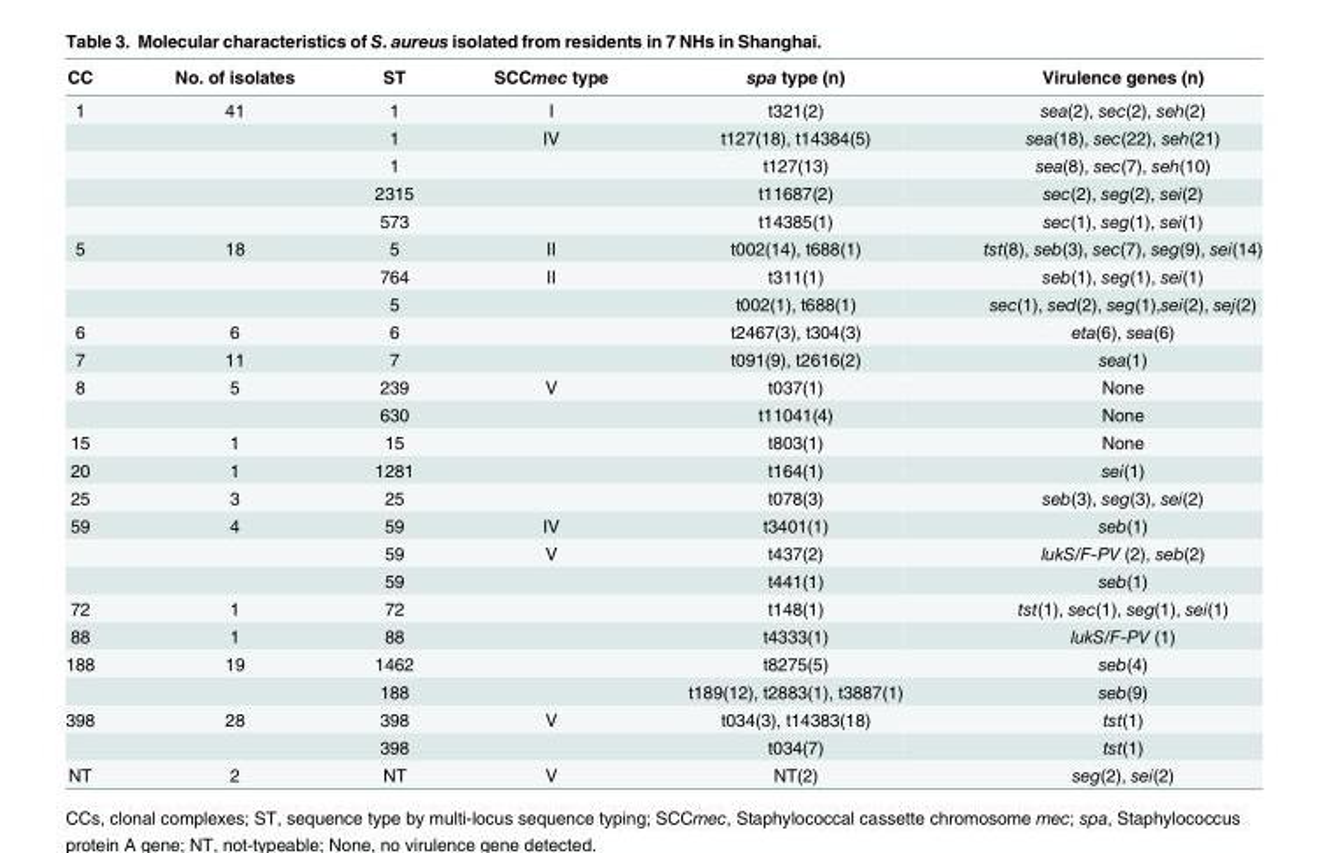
<table><thead><tr><td>CC</td><td>No. of isolates</td><td>ST</td><td>SCCmec type</td><td>spa type (n)</td><td>Virulence genes (n)</td></tr></thead><tbody><tr><td rowspan="5">1</td><td>41</td><td>1</td><td>I</td><td>t321(2)</td><td>sea(2), sec(2), seh(2)</td></tr><tr><td></td><td>1</td><td>IV</td><td>t127(18), t14384(5)</td><td>sea(18), sec(22), seh(21)</td></tr><tr><td></td><td>1</td><td></td><td>t127(13)</td><td>sea(8), sec(7), seh(10)</td></tr><tr><td></td><td>2315</td><td></td><td>t11687(2)</td><td>sec(2), seg(2), sei(2)</td></tr><tr><td></td><td>573</td><td></td><td>t14385(1)</td><td>sec(1), seg(1), sei(1)</td></tr><tr><td rowspan="3">5</td><td>18</td><td>5</td><td>II</td><td>t002(14), t688(1)</td><td>tst(8), seb(3), sec(7), seg(9), sei(14)</td></tr><tr><td></td><td>764</td><td>II</td><td>t311(1)</td><td>seb(1), seg(1), sei(1)</td></tr><tr><td></td><td>5</td><td></td><td>t002(1), t688(1)</td><td>sec(1), sed(2), seg(1),sei(2), sej(2)</td></tr><tr><td>6</td><td>6</td><td>6</td><td></td><td>t2467(3), t304(3)</td><td>eta(6), sea(6)</td></tr><tr><td>7</td><td>11</td><td>7</td><td></td><td>t091(9), t2616(2)</td><td>sea(1)</td></tr><tr><td rowspan="2">8</td><td>5</td><td>239</td><td>V</td><td>t037(1)</td><td>None</td></tr><tr><td></td><td>630</td><td></td><td>t11041(4)</td><td>None</td></tr><tr><td>15</td><td>1</td><td>15</td><td></td><td>t803(1)</td><td>None</td></tr><tr><td>20</td><td>1</td><td>1281</td><td></td><td>t164(1)</td><td>sei(1)</td></tr><tr><td>25</td><td>3</td><td>25</td><td></td><td>t078(3)</td><td>seb(3), seg(3), sei(2)</td></tr><tr><td rowspan="3">59</td><td>4</td><td>59</td><td>IV</td><td>t3401(1)</td><td>seb(1)</td></tr><tr><td></td><td>59</td><td>V</td><td>t437(2)</td><td>lukS/F-PV (2), seb(2)</td></tr><tr><td></td><td>59</td><td></td><td>t441(1)</td><td>seb(1)</td></tr><tr><td>72</td><td>1</td><td>72</td><td></td><td>t148(1)</td><td>tst(1), sec(1), seg(1), sei(1)</td></tr><tr><td>88</td><td>1</td><td>88</td><td></td><td>t4333(1)</td><td>lukS/F-PV (1)</td></tr><tr><td rowspan="2">188</td><td>19</td><td>1462</td><td></td><td>t8275(5)</td><td>seb(4)</td></tr><tr><td></td><td>188</td><td></td><td>t189(12), t2883(1), t3887(1)</td><td>seb(9)</td></tr><tr><td rowspan="2">398</td><td>28</td><td>398</td><td>V</td><td>t034(3), t14383(18)</td><td>tst(1)</td></tr><tr><td></td><td>398</td><td></td><td>t034(7)</td><td>tst(1)</td></tr><tr><td>NT</td><td>2</td><td>NT</td><td>V</td><td>NT(2)</td><td>seg(2), sei(2)</td></tr></tbody></table>